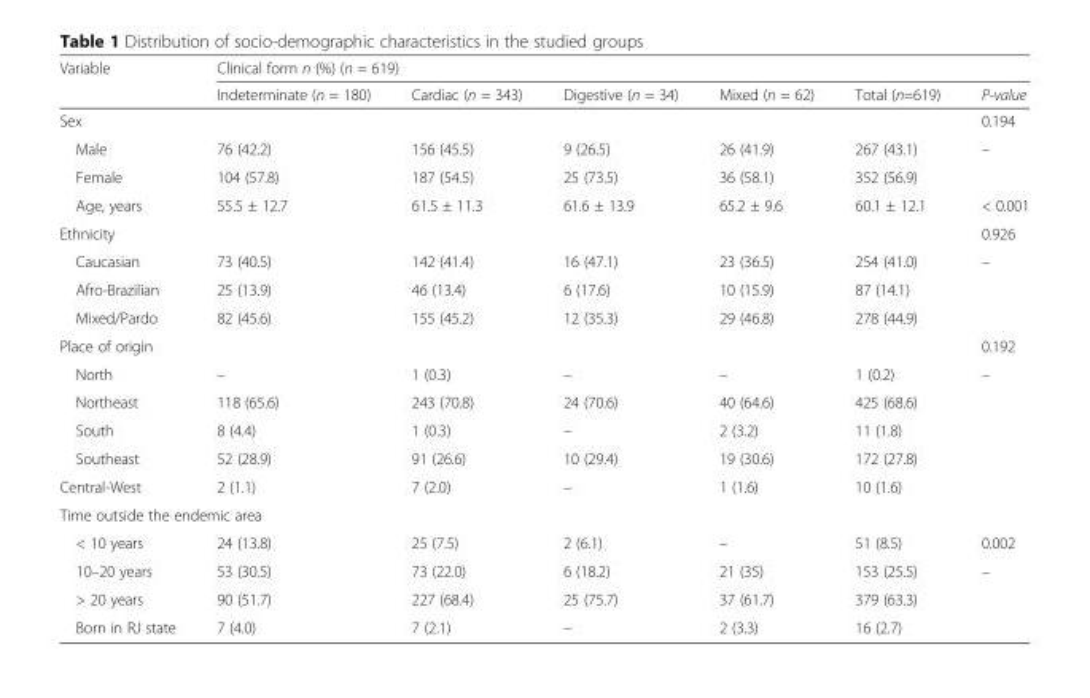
<table><thead><tr><td rowspan="2">Variable</td><td colspan="6">Clinical form n (%) (n = 619)</td></tr><tr><td>Indeterminate (n = 180)</td><td>Cardiac (n = 343)</td><td>Digestive (n = 34)</td><td>Mixed (n = 62)</td><td>Total (n=619)</td><td>P-value</td></tr></thead><tbody><tr><td colspan="6">Sex</td><td>0.194</td></tr><tr><td>Male</td><td>76 (42.2)</td><td>156 (45.5)</td><td>9 (26.5)</td><td>26 (41.9)</td><td>267 (43.1)</td><td rowspan="2">–</td></tr><tr><td>Female</td><td>104 (57.8)</td><td>187 (54.5)</td><td>25 (73.5)</td><td>36 (58.1)</td><td>352 (56.9)</td></tr><tr><td>Age, years</td><td>55.5 ± 12.7</td><td>61.5 ± 11.3</td><td>61.6 ± 13.9</td><td>65.2 ± 9.6</td><td>60.1 ± 12.1</td><td>&lt; 0.001</td></tr><tr><td colspan="6">Ethnicity</td><td>0.926</td></tr><tr><td>Caucasian</td><td>73 (40.5)</td><td>142 (41.4)</td><td>16 (47.1)</td><td>23 (36.5)</td><td>254 (41.0)</td><td rowspan="3">–</td></tr><tr><td>Afro-Brazilian</td><td>25 (13.9)</td><td>46 (13.4)</td><td>6 (17.6)</td><td>10 (15.9)</td><td>87 (14.1)</td></tr><tr><td>Mixed/Pardo</td><td>82 (45.6)</td><td>155 (45.2)</td><td>12 (35.3)</td><td>29 (46.8)</td><td>278 (44.9)</td></tr><tr><td colspan="6">Place of origin</td><td>0.192</td></tr><tr><td>North</td><td>–</td><td>1 (0.3)</td><td>–</td><td>–</td><td>1 (0.2)</td><td rowspan="5">–</td></tr><tr><td>Northeast</td><td>118 (65.6)</td><td>243 (70.8)</td><td>24 (70.6)</td><td>40 (64.6)</td><td>425 (68.6)</td></tr><tr><td>South</td><td>8 (4.4)</td><td>1 (0.3)</td><td>–</td><td>2 (3.2)</td><td>11 (1.8)</td></tr><tr><td>Southeast</td><td>52 (28.9)</td><td>91 (26.6)</td><td>10 (29.4)</td><td>19 (30.6)</td><td>172 (27.8)</td></tr><tr><td>Central-West</td><td>2 (1.1)</td><td>7 (2.0)</td><td>–</td><td>1 (1.6)</td><td>10 (1.6)</td></tr><tr><td colspan="7">Time outside the endemic area</td></tr><tr><td>&lt; 10 years</td><td>24 (13.8)</td><td>25 (7.5)</td><td>2 (6.1)</td><td>–</td><td>51 (8.5)</td><td>0.002</td></tr><tr><td>10–20 years</td><td>53 (30.5)</td><td>73 (22.0)</td><td>6 (18.2)</td><td>21 (35)</td><td>153 (25.5)</td><td rowspan="3">–</td></tr><tr><td>&gt; 20 years</td><td>90 (51.7)</td><td>227 (68.4)</td><td>25 (75.7)</td><td>37 (61.7)</td><td>379 (63.3)</td></tr><tr><td>Born in RJ state</td><td>7 (4.0)</td><td>7 (2.1)</td><td>–</td><td>2 (3.3)</td><td>16 (2.7)</td></tr></tbody></table>